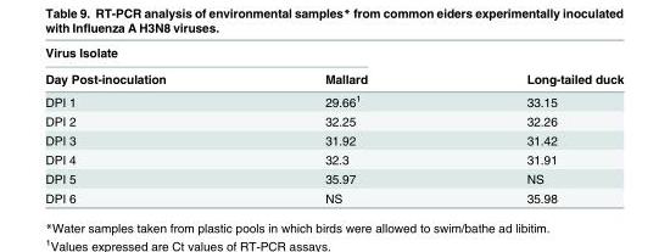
<table><thead><tr><td colspan="2">Virus Isolate</td><td rowspan="2">Long-tailed duck</td></tr><tr><td>Day Post-inoculation</td><td>Mallard</td></tr></thead><tbody><tr><td>DPI 1</td><td>29.66<sup>1</sup></td><td>33.15</td></tr><tr><td>DPI 2</td><td>32.25</td><td>32.26</td></tr><tr><td>DPI 3</td><td>31.92</td><td>31.42</td></tr><tr><td>DPI 4</td><td>32.3</td><td>31.91</td></tr><tr><td>DPI 5</td><td>35.97</td><td>NS</td></tr><tr><td>DPI 6</td><td>NS</td><td>35.98</td></tr></tbody></table>